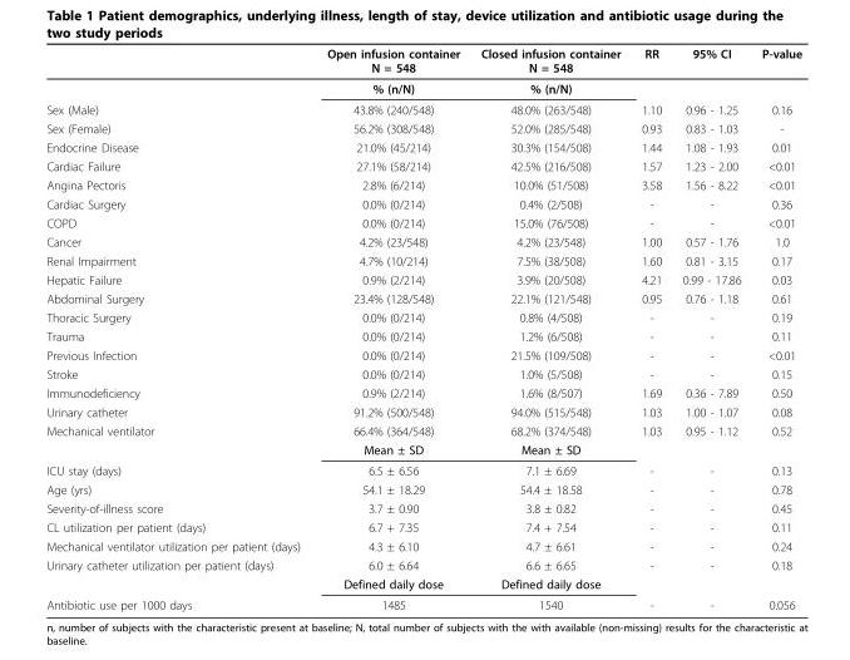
<table><thead><tr><td></td><td>Open infusion container N = 548</td><td>Closed infusion container N = 548</td><td>RR</td><td>95% CI</td><td>P-value</td></tr></thead><tbody><tr><td></td><td>% (n/N)</td><td>% (n/N)</td><td></td><td></td><td></td></tr><tr><td>Sex (Male)</td><td>43.8% (240/548)</td><td>48.0% (263/548)</td><td>1.10</td><td>0.96 - 1.25</td><td>0.16</td></tr><tr><td>Sex (Female)</td><td>56.2% (308/548)</td><td>52.0% (285/548)</td><td>0.93</td><td>0.83 - 1.03</td><td>-</td></tr><tr><td>Endocrine Disease</td><td>21.0% (45/214)</td><td>30.3% (154/508)</td><td>1.44</td><td>1.08 - 1.93</td><td>0.01</td></tr><tr><td>Cardiac Failure</td><td>27.1% (58/214)</td><td>42.5% (216/508)</td><td>1.57</td><td>1.23 - 2.00</td><td>&lt;0.01</td></tr><tr><td>Angina Pectoris</td><td>2.8% (6/214)</td><td>10.0% (51/508)</td><td>3.58</td><td>1.56 - 8.22</td><td>&lt;0.01</td></tr><tr><td>Cardiac Surgery</td><td>0.0% (0/214)</td><td>0.4% (2/508)</td><td>-</td><td>-</td><td>0.36</td></tr><tr><td>COPD</td><td>0.0% (0/214)</td><td>15.0% (76/508)</td><td>-</td><td>-</td><td>&lt;0.01</td></tr><tr><td>Cancer</td><td>4.2% (23/548)</td><td>4.2% (23/548)</td><td>1.00</td><td>0.57 - 1.76</td><td>1.0</td></tr><tr><td>Renal Impairment</td><td>4.7% (10/214)</td><td>7.5% (38/508)</td><td>1.60</td><td>0.81 - 3.15</td><td>0.17</td></tr><tr><td>Hepatic Failure</td><td>0.9% (2/214)</td><td>3.9% (20/508)</td><td>4.21</td><td>0.99 - 17.86</td><td>0.03</td></tr><tr><td>Abdominal Surgery</td><td>23.4% (128/548)</td><td>22.1% (121/548)</td><td>0.95</td><td>0.76 - 1.18</td><td>0.61</td></tr><tr><td>Thoracic Surgery</td><td>0.0% (0/214)</td><td>0.8% (4/508)</td><td>-</td><td>-</td><td>0.19</td></tr><tr><td>Trauma</td><td>0.0% (0/214)</td><td>1.2% (6/508)</td><td>-</td><td>-</td><td>0.11</td></tr><tr><td>Previous Infection</td><td>0.0% (0/214)</td><td>21.5% (109/508)</td><td>-</td><td>-</td><td>&lt;0.01</td></tr><tr><td>Stroke</td><td>0.0% (0/214)</td><td>1.0% (5/508)</td><td>-</td><td>-</td><td>0.15</td></tr><tr><td>Immunodeficiency</td><td>0.9% (2/214)</td><td>1.6% (8/507)</td><td>1.69</td><td>0.36 - 7.89</td><td>0.50</td></tr><tr><td>Urinary catheter</td><td>91.2% (500/548)</td><td>94.0% (515/548)</td><td>1.03</td><td>1.00 - 1.07</td><td>0.08</td></tr><tr><td rowspan="2">Mechanical ventilator</td><td>66.4% (364/548)</td><td>68.2% (374/548)</td><td>1.03</td><td>0.95 - 1.12</td><td>0.52</td></tr><tr><td>Mean ± SD</td><td>Mean ± SD</td><td></td><td></td><td></td></tr><tr><td>ICU stay (days)</td><td>6.5 ± 6.56</td><td>7.1 ± 6.69</td><td>-</td><td>-</td><td>0.13</td></tr><tr><td>Age (yrs)</td><td>54.1 ± 18.29</td><td>54.4 ± 18.58</td><td>-</td><td>-</td><td>0.78</td></tr><tr><td>Severity-of-illness score</td><td>3.7 ± 0.90</td><td>3.8 ± 0.82</td><td>-</td><td>-</td><td>0.45</td></tr><tr><td>CL utilization per patient (days)</td><td>6.7 + 7.35</td><td>7.4 + 7.54</td><td>-</td><td>-</td><td>0.11</td></tr><tr><td>Mechanical ventilator utilization per patient (days)</td><td>4.3 ± 6.10</td><td>4.7 ± 6.61</td><td>-</td><td>-</td><td>0.24</td></tr><tr><td rowspan="2">Urinary catheter utilization per patient (days)</td><td>6.0 ± 6.64</td><td>6.6 ± 6.65</td><td>-</td><td>-</td><td>0.18</td></tr><tr><td>Defined daily dose</td><td>Defined daily dose</td><td></td><td></td><td></td></tr><tr><td>Antibiotic use per 1000 days</td><td>1485</td><td>1540</td><td>-</td><td>-</td><td>0.056</td></tr></tbody></table>